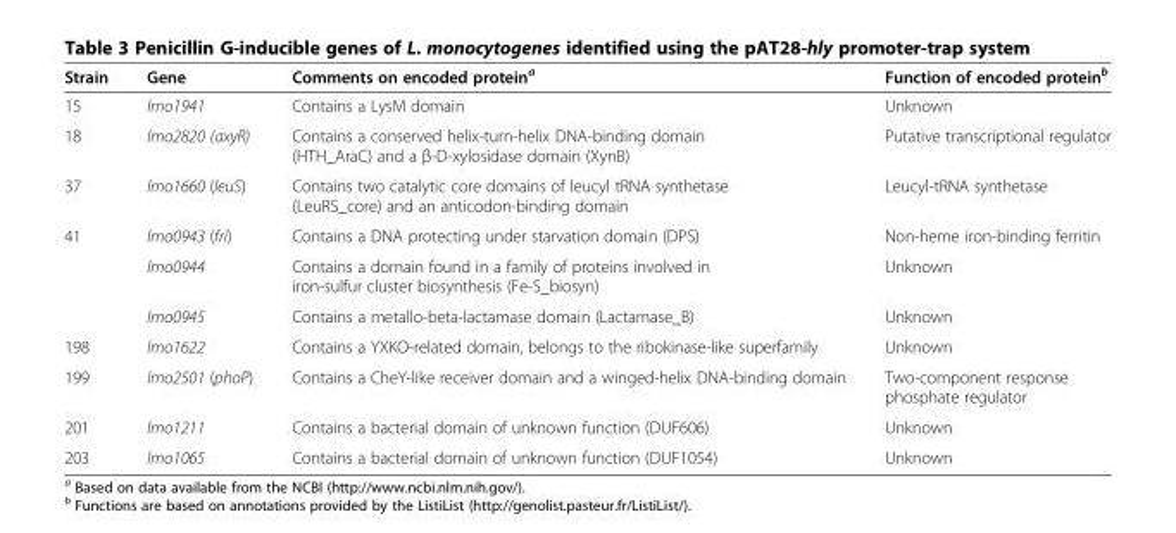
<table><thead><tr><td>Strain</td><td>Gene</td><td>Comments on encoded protein<sup>a</sup></td><td>Function of encoded protein<sup>b</sup></td></tr></thead><tbody><tr><td>15</td><td>lmo1941</td><td>Contains a LysM domain</td><td>Unknown</td></tr><tr><td>18</td><td>lmo2820 (axyR)</td><td>Contains a conserved helix-turn-helix DNA-binding domain (HTH_AraC) and a β-D-xylosidase domain (XynB)</td><td>Putative transcriptional regulator</td></tr><tr><td>37</td><td>lmo1660 (leuS)</td><td>Contains two catalytic core domains of leucyl tRNA synthetase (LeuRS_core) and an anticodon-binding domain</td><td>Leucyl-tRNA synthetase</td></tr><tr><td rowspan="3">41</td><td>lmo0943 (fri)</td><td>Contains a DNA protecting under starvation domain (DPS)</td><td>Non-heme iron-binding ferritin</td></tr><tr><td>lmo0944</td><td>Contains a domain found in a family of proteins involved in iron-sulfur cluster biosynthesis (Fe-S_biosyn)</td><td>Unknown</td></tr><tr><td>lmo0945</td><td>Contains a metallo-beta-lactamase domain (Lactamase_B)</td><td>Unknown</td></tr><tr><td>198</td><td>lmo1622</td><td>Contains a YXKO-related domain, belongs to the ribokinase-like superfamily</td><td>Unknown</td></tr><tr><td>199</td><td>lmo2501 (phoP)</td><td>Contains a CheY-like receiver domain and a winged-helix DNA-binding domain</td><td>Two-component response phosphate regulator</td></tr><tr><td>201</td><td>lmo1211</td><td>Contains a bacterial domain of unknown function (DUF606)</td><td>Unknown</td></tr><tr><td>203</td><td>lmo1065</td><td>Contains a bacterial domain of unknown function (DUF1054)</td><td>Unknown</td></tr></tbody></table>